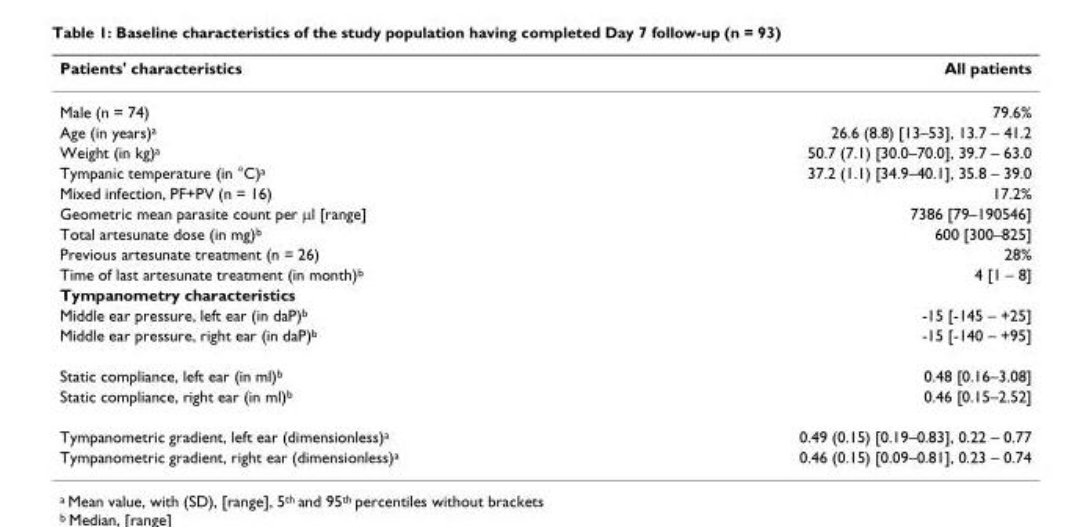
<table><thead><tr><td>Patients&#x27; characteristics</td><td>All patients</td></tr></thead><tbody><tr><td>Male (n = 74)</td><td>79.6%</td></tr><tr><td>Age (in years)<sup>a</sup></td><td>26.6 (8.8) [13–53], 13.7 – 41.2</td></tr><tr><td>Weight (in kg)<sup>a</sup></td><td>50.7 (7.1) [30.0–70.0], 39.7 – 63.0</td></tr><tr><td>Tympanic temperature (in °C)<sup>a</sup></td><td>37.2 (1.1) [34.9–40.1], 35.8 – 39.0</td></tr><tr><td>Mixed infection, PF+PV (n = 16)</td><td>17.2%</td></tr><tr><td>Geometric mean parasite count per μl [range]</td><td>7386 [79–190546]</td></tr><tr><td>Total artesunate dose (in mg)<sup>b</sup></td><td>600 [300–825]</td></tr><tr><td>Previous artesunate treatment (n = 26)</td><td>28%</td></tr><tr><td>Time of last artesunate treatment (in month)<sup>b</sup></td><td>4 [1 – 8]</td></tr><tr><td colspan="2">Tympanometry characteristics</td></tr><tr><td>Middle ear pressure, left ear (in daP)<sup>b</sup></td><td>-15 [-145 – +25]</td></tr><tr><td>Middle ear pressure, right ear (in daP)<sup>b</sup></td><td>-15 [-140 – +95]</td></tr><tr><td>Static compliance, left ear (in ml)<sup>b</sup></td><td>0.48 [0.16–3.08]</td></tr><tr><td>Static compliance, right ear (in ml)<sup>b</sup></td><td>0.46 [0.15–2.52]</td></tr><tr><td>Tympanometric gradient, left ear (dimensionless)<sup>a</sup></td><td>0.49 (0.15) [0.19–0.83], 0.22 – 0.77</td></tr><tr><td>Tympanometric gradient, right ear (dimensionless)<sup>a</sup></td><td>0.46 (0.15) [0.09–0.81], 0.23 – 0.74</td></tr></tbody></table>